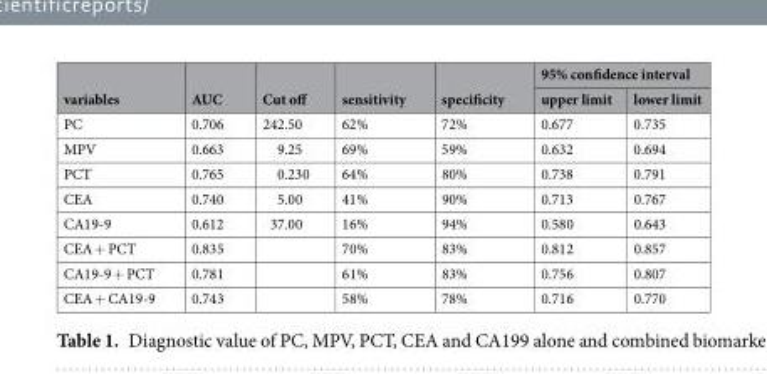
<table><thead><tr><td rowspan="2">variables</td><td rowspan="2">AUC</td><td rowspan="2">Cut off</td><td rowspan="2">sensitivity</td><td rowspan="2">specificity</td><td colspan="2">95% confidence interval</td></tr><tr><td>upper limit</td><td>lower limit</td></tr></thead><tbody><tr><td>PC</td><td>0.706</td><td>242.50</td><td>62%</td><td>72%</td><td>0.677</td><td>0.735</td></tr><tr><td>MPV</td><td>0.663</td><td>9.25</td><td>69%</td><td>59%</td><td>0.632</td><td>0.694</td></tr><tr><td>PCT</td><td>0.765</td><td>0.230</td><td>64%</td><td>80%</td><td>0.738</td><td>0.791</td></tr><tr><td>CEA</td><td>0.740</td><td>5.00</td><td>41%</td><td>90%</td><td>0.713</td><td>0.767</td></tr><tr><td>CA19-9</td><td>0.612</td><td>37.00</td><td>16%</td><td>94%</td><td>0.580</td><td>0.643</td></tr><tr><td>CEA + PCT</td><td>0.835</td><td></td><td>70%</td><td>83%</td><td>0.812</td><td>0.857</td></tr><tr><td>CA19-9 + PCT</td><td>0.781</td><td></td><td>61%</td><td>83%</td><td>0.756</td><td>0.807</td></tr><tr><td>CEA + CA19-9</td><td>0.743</td><td></td><td>58%</td><td>78%</td><td>0.716</td><td>0.770</td></tr></tbody></table>